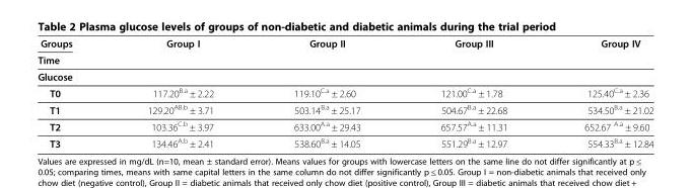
<table><thead><tr><td rowspan="2">Groups Time</td><td rowspan="2">Group I</td><td rowspan="2">Group II</td><td rowspan="2">Group III</td><td rowspan="2">Group IV</td></tr><tr></tr></thead><tbody><tr><td colspan="5">Glucose</td></tr><tr><td>T0</td><td>117.20<sup>B.a</sup> ± 2.22</td><td>119.10<sup>C.a</sup> ± 2.60</td><td>121.00<sup>C.a</sup> ± 1.78</td><td>125.40<sup>C.a</sup> ± 2.36</td></tr><tr><td>T1</td><td>129.20<sup>AB.b</sup> ± 3.71</td><td>503.14<sup>B.a</sup> ± 25.17</td><td>504.67<sup>B.a</sup> ± 22.68</td><td>534.50<sup>B.a</sup> ± 21.02</td></tr><tr><td>T2</td><td>103.36<sup>C.b</sup> ± 3.97</td><td>633.00<sup>A.a</sup> ± 29.43</td><td>657.57<sup>A.a</sup> ± 11.31</td><td>652.67 <sup>A.a</sup> ± 9.60</td></tr><tr><td>T3</td><td>134.46<sup>A.b</sup> ± 2.41</td><td>538.60<sup>B.a</sup> ± 14.05</td><td>551.29<sup>B.a</sup> ± 12.97</td><td>554.33<sup>B.a</sup> ± 12.84</td></tr></tbody></table>